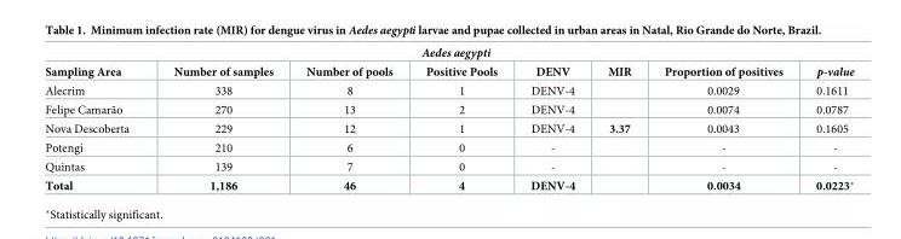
<table><thead><tr><td colspan="8">Aedes aegypti</td></tr><tr><td>Sampling Area</td><td>Number of samples</td><td>Number of pools</td><td>Positive Pools</td><td>DENV</td><td>MIR</td><td>Proportion of positives</td><td>p-value</td></tr></thead><tbody><tr><td>Alecrim</td><td>338</td><td>8</td><td>1</td><td>DENV-4</td><td></td><td>0.0029</td><td>0.1611</td></tr><tr><td>Felipe Camarão</td><td>270</td><td>13</td><td>2</td><td>DENV-4</td><td></td><td>0.0074</td><td>0.0787</td></tr><tr><td>Nova Descoberta</td><td>229</td><td>12</td><td>1</td><td>DENV-4</td><td>3.37</td><td>0.0043</td><td>0.1605</td></tr><tr><td>Potengi</td><td>210</td><td>6</td><td>0</td><td>-</td><td></td><td>-</td><td>-</td></tr><tr><td>Quintas</td><td>139</td><td>7</td><td>0</td><td>-</td><td></td><td>-</td><td>-</td></tr><tr><td>Total</td><td>1,186</td><td>46</td><td>4</td><td>DENV-4</td><td></td><td>0.0034</td><td>0.0223*</td></tr></tbody></table>